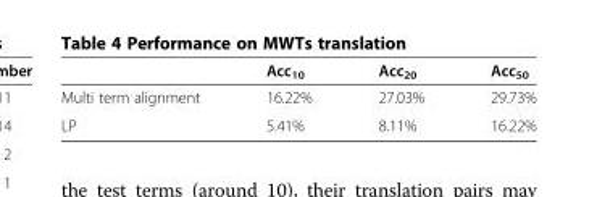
<table><thead><tr><td></td><td>Acc<sub>10</sub></td><td>Acc<sub>20</sub></td><td>Acc<sub>50</sub></td></tr></thead><tbody><tr><td>Multi term alignment</td><td>16.22%</td><td>27.03%</td><td>29.73%</td></tr><tr><td>LP</td><td>5.41%</td><td>8.11%</td><td>16.22%</td></tr></tbody></table>